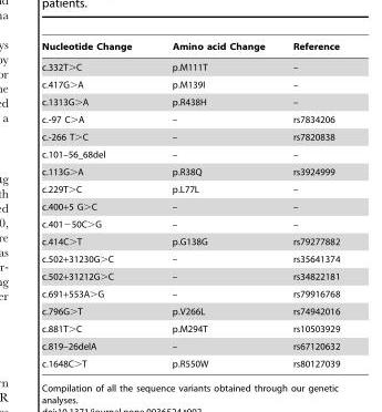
<table><thead><tr><td>Nucleotide Change</td><td>Amino acid Change</td><td>Reference</td></tr></thead><tbody><tr><td>c.332T&gt;C</td><td>p.M111T</td><td>–</td></tr><tr><td>c.417G&gt;A</td><td>p.M139I</td><td>–</td></tr><tr><td>c.1313G&gt;A</td><td>p.R438H</td><td>–</td></tr><tr><td>c.-97 C&gt;A</td><td>–</td><td>rs7834206</td></tr><tr><td>c.-266 T&gt;C</td><td>–</td><td>rs7820838</td></tr><tr><td>c.101–56_68del</td><td>–</td><td>–</td></tr><tr><td>c.113G&gt;A</td><td>p.R38Q</td><td>rs3924999</td></tr><tr><td>c.229T&gt;C</td><td>p.L77L</td><td>–</td></tr><tr><td>c.400+5 G&gt;C</td><td>–</td><td>–</td></tr><tr><td>c.401−50C&gt;G</td><td>–</td><td>–</td></tr><tr><td>c.414C&gt;T</td><td>p.G138G</td><td>rs79277882</td></tr><tr><td>c.502+31230G&gt;C</td><td>–</td><td>rs35641374</td></tr><tr><td>c.502+31212G&gt;C</td><td>–</td><td>rs34822181</td></tr><tr><td>c.691+553A&gt;G</td><td>–</td><td>rs79916768</td></tr><tr><td>c.796G&gt;T</td><td>p.V266L</td><td>rs74942016</td></tr><tr><td>c.881T&gt;C</td><td>p.M294T</td><td>rs10503929</td></tr><tr><td>c.819–26delA</td><td>–</td><td>rs67120632</td></tr><tr><td>c.1648C&gt;T</td><td>p.R550W</td><td>rs80127039</td></tr></tbody></table>